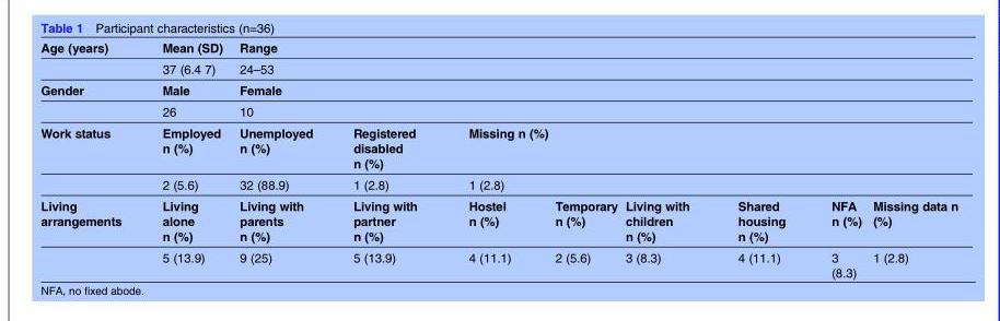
<table><thead><tr><td>Age (years)</td><td>Mean (SD)</td><td>Range</td><td></td><td></td><td></td><td></td><td></td><td></td><td></td></tr></thead><tbody><tr><td></td><td>37 (6.4 7)</td><td>24–53</td><td></td><td></td><td></td><td></td><td></td><td></td><td></td></tr><tr><td rowspan="2">Gender</td><td>Male</td><td>Female</td><td></td><td></td><td></td><td></td><td></td><td></td><td></td></tr><tr><td>26</td><td>10</td><td></td><td></td><td></td><td></td><td></td><td></td><td></td></tr><tr><td rowspan="2">Work status</td><td>Employed n (%)</td><td>Unemployed n (%)</td><td>Registered disabled n (%)</td><td>Missing n (%)</td><td></td><td></td><td></td><td></td><td></td></tr><tr><td>2 (5.6)</td><td>32 (88.9)</td><td>1 (2.8)</td><td>1 (2.8)</td><td></td><td></td><td></td><td></td><td></td></tr><tr><td rowspan="2">Living arrangements</td><td>Living alone n (%)</td><td>Living with parents n (%)</td><td>Living with partner n (%)</td><td>Hostel n (%)</td><td>Temporary n (%)</td><td>Living with children n (%)</td><td>Shared housing n (%)</td><td>NFA n (%)</td><td>Missing data n (%)</td></tr><tr><td>5 (13.9)</td><td>9 (25)</td><td>5 (13.9)</td><td>4 (11.1)</td><td>2 (5.6)</td><td>3 (8.3)</td><td>4 (11.1)</td><td>3 (8.3)</td><td>1 (2.8)</td></tr></tbody></table>